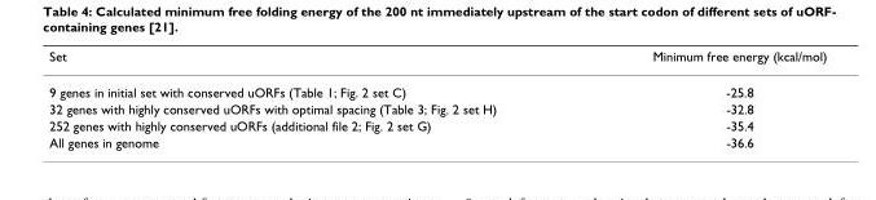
<table><thead><tr><td>Set</td><td>Minimum free energy (kcal/mol)</td></tr></thead><tbody><tr><td>9 genes in initial set with conserved uORFs (Table 1; Fig. 2 set C)</td><td>-25.8</td></tr><tr><td>32 genes with highly conserved uORFs with optimal spacing (Table 3; Fig. 2 set H)</td><td>-32.8</td></tr><tr><td>252 genes with highly conserved uORFs (additional file 2; Fig. 2 set G)</td><td>-35.4</td></tr><tr><td>All genes in genome</td><td>-36.6</td></tr></tbody></table>